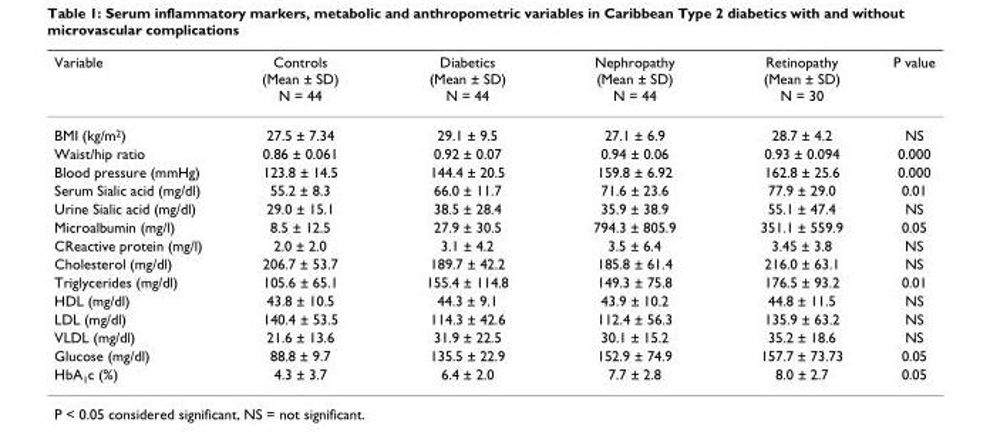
<table><thead><tr><td>Variable</td><td>Controls (Mean ± SD) N = 44</td><td>Diabetics (Mean ± SD) N = 44</td><td>Nephropathy (Mean ± SD) N = 44</td><td>Retinopathy (Mean ± SD) N = 30</td><td>P value</td></tr></thead><tbody><tr><td>BMI (kg/m<sup>2</sup>)</td><td>27.5 ± 7.34</td><td>29.1 ± 9.5</td><td>27.1 ± 6.9</td><td>28.7 ± 4.2</td><td>NS</td></tr><tr><td>Waist/hip ratio</td><td>0.86 ± 0.061</td><td>0.92 ± 0.07</td><td>0.94 ± 0.06</td><td>0.93 ± 0.094</td><td>0.000</td></tr><tr><td>Blood pressure (mmHg)</td><td>123.8 ± 14.5</td><td>144.4 ± 20.5</td><td>159.8 ± 6.92</td><td>162.8 ± 25.6</td><td>0.000</td></tr><tr><td>Serum Sialic acid (mg/dl)</td><td>55.2 ± 8.3</td><td>66.0 ± 11.7</td><td>71.6 ± 23.6</td><td>77.9 ± 29.0</td><td>0.01</td></tr><tr><td>Urine Sialic acid (mg/dl)</td><td>29.0 ± 15.1</td><td>38.5 ± 28.4</td><td>35.9 ± 38.9</td><td>55.1 ± 47.4</td><td>NS</td></tr><tr><td>Microalbumin (mg/l)</td><td>8.5 ± 12.5</td><td>27.9 ± 30.5</td><td>794.3 ± 805.9</td><td>351.1 ± 559.9</td><td>0.05</td></tr><tr><td>CReactive protein (mg/l)</td><td>2.0 ± 2.0</td><td>3.1 ± 4.2</td><td>3.5 ± 6.4</td><td>3.45 ± 3.8</td><td>NS</td></tr><tr><td>Cholesterol (mg/dl)</td><td>206.7 ± 53.7</td><td>189.7 ± 42.2</td><td>185.8 ± 61.4</td><td>216.0 ± 63.1</td><td>NS</td></tr><tr><td>Triglycerides (mg/dl)</td><td>105.6 ± 65.1</td><td>155.4 ± 114.8</td><td>149.3 ± 75.8</td><td>176.5 ± 93.2</td><td>0.01</td></tr><tr><td>HDL (mg/dl)</td><td>43.8 ± 10.5</td><td>44.3 ± 9.1</td><td>43.9 ± 10.2</td><td>44.8 ± 11.5</td><td>NS</td></tr><tr><td>LDL (mg/dl)</td><td>140.4 ± 53.5</td><td>114.3 ± 42.6</td><td>112.4 ± 56.3</td><td>135.9 ± 63.2</td><td>NS</td></tr><tr><td>VLDL (mg/dl)</td><td>21.6 ± 13.6</td><td>31.9 ± 22.5</td><td>30.1 ± 15.2</td><td>35.2 ± 18.6</td><td>NS</td></tr><tr><td>Glucose (mg/dl)</td><td>88.8 ± 9.7</td><td>135.5 ± 22.9</td><td>152.9 ± 74.9</td><td>157.7 ± 73.73</td><td>0.05</td></tr><tr><td>HbA<sub>1</sub>c (%)</td><td>4.3 ± 3.7</td><td>6.4 ± 2.0</td><td>7.7 ± 2.8</td><td>8.0 ± 2.7</td><td>0.05</td></tr></tbody></table>